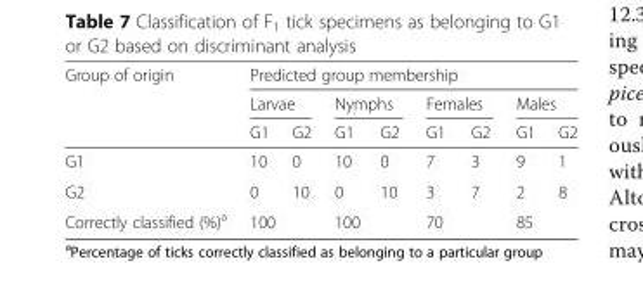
<table><thead><tr><td rowspan="3">Group of origin</td><td colspan="8">Predicted group membership</td></tr><tr><td colspan="2">Larvae</td><td colspan="2">Nymphs</td><td colspan="2">Females</td><td colspan="2">Males</td></tr><tr><td>G1</td><td>G2</td><td>G1</td><td>G2</td><td>G1</td><td>G2</td><td>G1</td><td>G2</td></tr></thead><tbody><tr><td>G1</td><td>10</td><td>0</td><td>10</td><td>0</td><td>7</td><td>3</td><td>9</td><td>1</td></tr><tr><td>G2</td><td>0</td><td>10</td><td>0</td><td>10</td><td>3</td><td>7</td><td>2</td><td>8</td></tr><tr><td>Correctly classified (%)<sup>a</sup></td><td colspan="2">100</td><td colspan="2">100</td><td colspan="2">70</td><td colspan="2">85</td></tr></tbody></table>